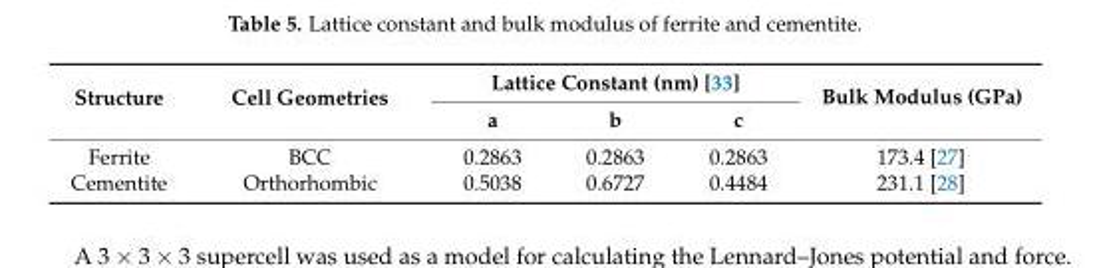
<table><thead><tr><td rowspan="2">Structure</td><td rowspan="2">Cell Geometries</td><td colspan="3">Lattice Constant (nm) [33]</td><td rowspan="2">Bulk Modulus (GPa)</td></tr><tr><td>a</td><td>b</td><td>c</td></tr></thead><tbody><tr><td>Ferrite</td><td>BCC</td><td>0.2863</td><td>0.2863</td><td>0.2863</td><td>173.4 [27]</td></tr><tr><td>Cementite</td><td>Orthorhombic</td><td>0.5038</td><td>0.6727</td><td>0.4484</td><td>231.1 [28]</td></tr></tbody></table>